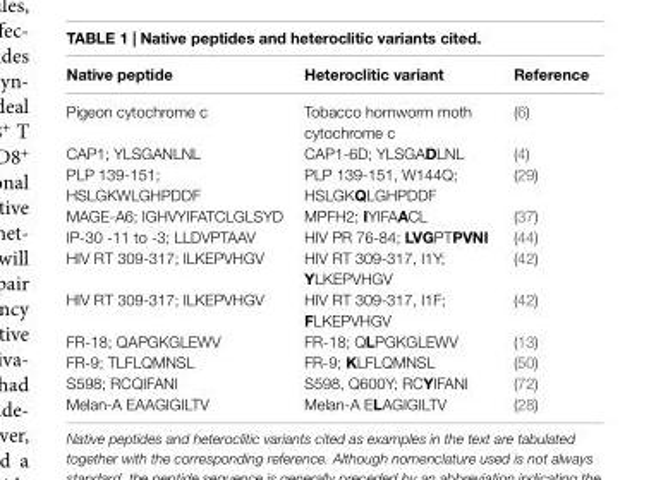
<table><thead><tr><td>Native peptide</td><td>Heteroclitic variant</td><td>Reference</td></tr></thead><tbody><tr><td>Pigeon cytochrome c</td><td>Tobacco hornworm moth cytochrome c</td><td>(6)</td></tr><tr><td>CAP1; YLSGANLNL</td><td>CAP1-6D; YLSGADLNL</td><td>(4)</td></tr><tr><td>PLP 139-151; HSLGKWLGHPDDF</td><td>PLP 139-151, W144Q; HSLGKQLGHPDDF</td><td>(29)</td></tr><tr><td>MAGE-A6; IGHVYIFATCLGLSYD</td><td>MPFH2; iYIFAACL</td><td>(37)</td></tr><tr><td>IP-30 -11 to -3; LLDVPTAAV</td><td>HIV PR 76-84; LvGPTPvNi</td><td>(44)</td></tr><tr><td>HIV RT 309-317; ILKEPVHGV</td><td>HIV RT 309-317, I1Y; YLKEPVHGV</td><td>(42)</td></tr><tr><td>HIV RT 309-317; ILKEPVHGV</td><td>HIV RT 309-317, I1F; FLKEPVHGV</td><td>(42)</td></tr><tr><td>FR-18; QAPGKGLEWV</td><td>FR-18; QLPGKGLEWV</td><td>(13)</td></tr><tr><td>FR-9; TLFLQMNSL</td><td>FR-9; KLFLQMNSL</td><td>(50)</td></tr><tr><td>S598; RCQIFANI</td><td>S598, Q600Y; RCYIFANI</td><td>(72)</td></tr><tr><td>Melan-A EAAGIGILTV</td><td>Melan-A ELAGIGILTV</td><td>(28)</td></tr></tbody></table>